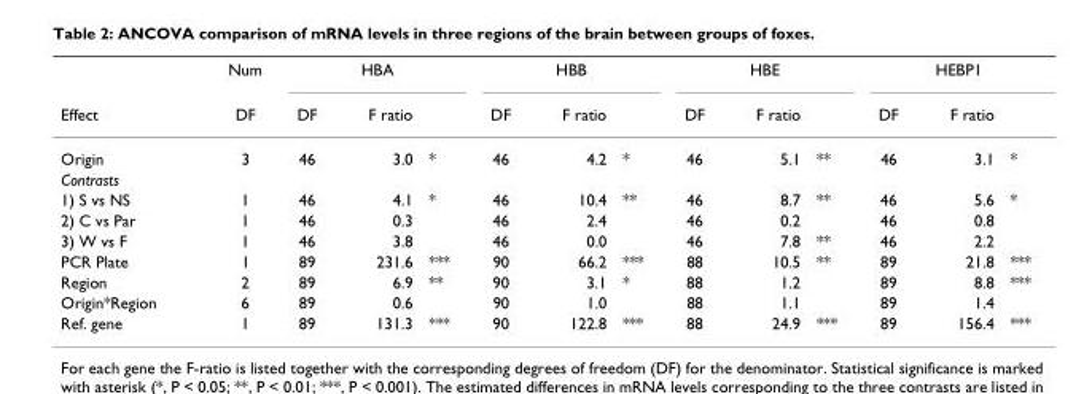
<table><thead><tr><td rowspan="2">Effect</td><td rowspan="2">Num DF</td><td colspan="3">HBA</td><td colspan="3">HBB</td><td colspan="3">HBE</td><td colspan="3">HEBP1</td></tr><tr><td>DF</td><td>F ratio</td><td></td><td>DF</td><td>F ratio</td><td></td><td>DF</td><td>F ratio</td><td></td><td>DF</td><td>F ratio</td><td></td></tr></thead><tbody><tr><td>Origin</td><td>3</td><td>46</td><td>3.0</td><td>*</td><td>46</td><td>4.2</td><td>*</td><td>46</td><td>5.1</td><td>**</td><td>46</td><td>3.1</td><td>*</td></tr><tr><td colspan="14">Contrasts</td></tr><tr><td>1) S vs NS</td><td>1</td><td>46</td><td>4.1</td><td>*</td><td>46</td><td>10.4</td><td>**</td><td>46</td><td>8.7</td><td>**</td><td>46</td><td>5.6</td><td>*</td></tr><tr><td>2) C vs Par</td><td>1</td><td>46</td><td>0.3</td><td></td><td>46</td><td>2.4</td><td></td><td>46</td><td>0.2</td><td></td><td>46</td><td>0.8</td><td></td></tr><tr><td>3) W vs F</td><td>1</td><td>46</td><td>3.8</td><td></td><td>46</td><td>0.0</td><td></td><td>46</td><td>7.8</td><td>**</td><td>46</td><td>2.2</td><td></td></tr><tr><td>PCR Plate</td><td>1</td><td>89</td><td>231.6</td><td>***</td><td>90</td><td>66.2</td><td>***</td><td>88</td><td>10.5</td><td>**</td><td>89</td><td>21.8</td><td>***</td></tr><tr><td>Region</td><td>2</td><td>89</td><td>6.9</td><td>**</td><td>90</td><td>3.1</td><td>*</td><td>88</td><td>1.2</td><td></td><td>89</td><td>8.8</td><td>***</td></tr><tr><td>Origin*Region</td><td>6</td><td>89</td><td>0.6</td><td></td><td>90</td><td>1.0</td><td></td><td>88</td><td>1.1</td><td></td><td>89</td><td>1.4</td><td></td></tr><tr><td>Ref. gene</td><td>1</td><td>89</td><td>131.3</td><td>***</td><td>90</td><td>122.8</td><td>***</td><td>88</td><td>24.9</td><td>***</td><td>89</td><td>156.4</td><td>***</td></tr></tbody></table>